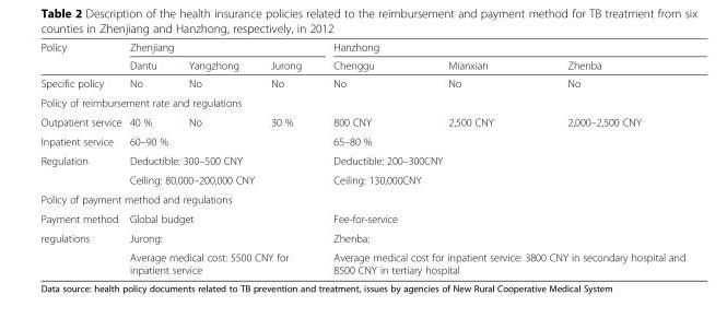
<table><thead><tr><td rowspan="2">Policy</td><td colspan="3">Zhenjiang</td><td colspan="3">Hanzhong</td></tr><tr><td>Dantu</td><td>Yangzhong</td><td>Jurong</td><td>Chenggu</td><td>Mianxian</td><td>Zhenba</td></tr></thead><tbody><tr><td>Specific policy</td><td>No</td><td>No</td><td>No</td><td>No</td><td>No</td><td>No</td></tr><tr><td colspan="7">Policy of reimbursement rate and regulations</td></tr><tr><td>Outpatient service</td><td>40 %</td><td>No</td><td>30 %</td><td>800 CNY</td><td>2,500 CNY</td><td>2,000–2,500 CNY</td></tr><tr><td>Inpatient service</td><td colspan="3">60–90 %</td><td colspan="3">65–80 %</td></tr><tr><td rowspan="2">Regulation</td><td colspan="3">Deductible: 300–500 CNY</td><td colspan="3">Deductible: 200–300CNY</td></tr><tr><td colspan="3">Ceiling: 80,000–200,000 CNY</td><td colspan="3">Ceiling: 130,000CNY</td></tr><tr><td colspan="7">Policy of payment method and regulations</td></tr><tr><td>Payment method</td><td colspan="3">Global budget</td><td colspan="3">Fee-for-service</td></tr><tr><td rowspan="2">regulations</td><td colspan="3">Jurong:</td><td colspan="3">Zhenba:</td></tr><tr><td colspan="3">Average medical cost: 5500 CNY for inpatient service</td><td colspan="3">Average medical cost for inpatient service: 3800 CNY in secondary hospital and 8500 CNY in tertiary hospital</td></tr></tbody></table>